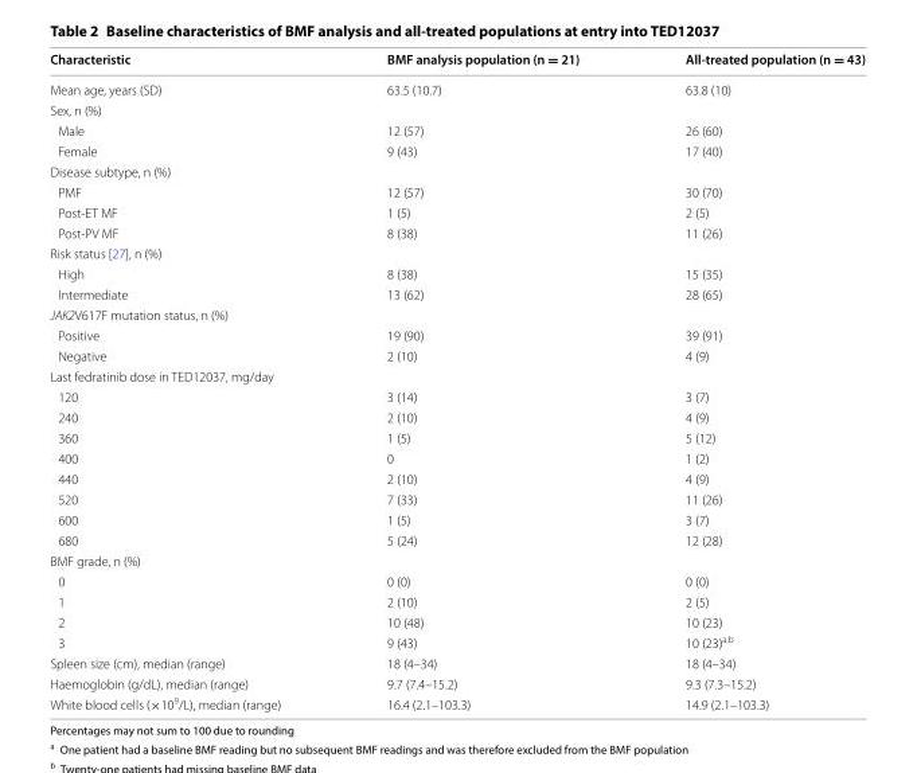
<table><thead><tr><td>Characteristic</td><td>BMF analysis population (n = 21)</td><td>All-treated population (n = 43)</td></tr></thead><tbody><tr><td>Mean age, years (SD)</td><td>63.5 (10.7)</td><td>63.8 (10)</td></tr><tr><td colspan="3">Sex, n (%)</td></tr><tr><td>Male</td><td>12 (57)</td><td>26 (60)</td></tr><tr><td>Female</td><td>9 (43)</td><td>17 (40)</td></tr><tr><td colspan="3">Disease subtype, n (%)</td></tr><tr><td>PMF</td><td>12 (57)</td><td>30 (70)</td></tr><tr><td>Post-ET MF</td><td>1 (5)</td><td>2 (5)</td></tr><tr><td>Post-PV MF</td><td>8 (38)</td><td>11 (26)</td></tr><tr><td colspan="3">Risk status [27], n (%)</td></tr><tr><td>High</td><td>8 (38)</td><td>15 (35)</td></tr><tr><td>Intermediate</td><td>13 (62)</td><td>28 (65)</td></tr><tr><td colspan="3">JAK2V617F mutation status, n (%)</td></tr><tr><td>Positive</td><td>19 (90)</td><td>39 (91)</td></tr><tr><td>Negative</td><td>2 (10)</td><td>4 (9)</td></tr><tr><td colspan="3">Last fedratinib dose in TED12037, mg/day</td></tr><tr><td>120</td><td>3 (14)</td><td>3 (7)</td></tr><tr><td>240</td><td>2 (10)</td><td>4 (9)</td></tr><tr><td>360</td><td>1 (5)</td><td>5 (12)</td></tr><tr><td>400</td><td>0</td><td>1 (2)</td></tr><tr><td>440</td><td>2 (10)</td><td>4 (9)</td></tr><tr><td>520</td><td>7 (33)</td><td>11 (26)</td></tr><tr><td>600</td><td>1 (5)</td><td>3 (7)</td></tr><tr><td>680</td><td>5 (24)</td><td>12 (28)</td></tr><tr><td colspan="3">BMF grade, n (%)</td></tr><tr><td>0</td><td>0 (0)</td><td>0 (0)</td></tr><tr><td>1</td><td>2 (10)</td><td>2 (5)</td></tr><tr><td>2</td><td>10 (48)</td><td>10 (23)</td></tr><tr><td>3</td><td>9 (43)</td><td>10 (23)<sup>a,b</sup></td></tr><tr><td>Spleen size (cm), median (range)</td><td>18 (4–34)</td><td>18 (4–34)</td></tr><tr><td>Haemoglobin (g/dL), median (range)</td><td>9.7 (7.4–15.2)</td><td>9.3 (7.3–15.2)</td></tr><tr><td>White blood cells (×10<sup>9</sup>/L), median (range)</td><td>16.4 (2.1–103.3)</td><td>14.9 (2.1–103.3)</td></tr></tbody></table>